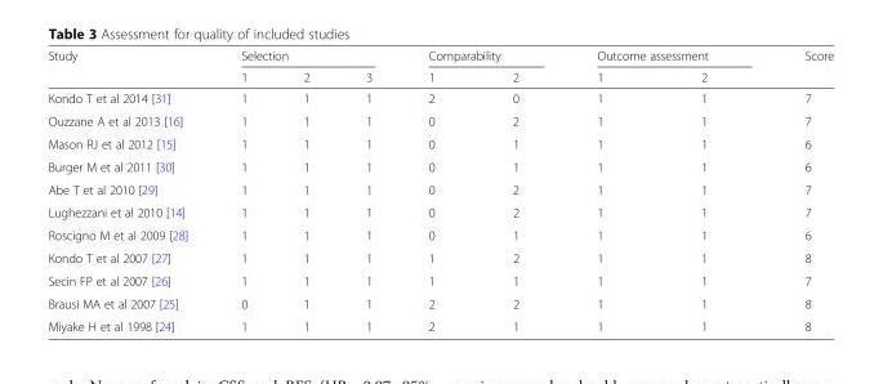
<table><thead><tr><td rowspan="2">Study</td><td colspan="3">Selection</td><td colspan="2">Comparability</td><td colspan="2">Outcome assessment</td><td rowspan="2">Score</td></tr><tr><td>1</td><td>2</td><td>3</td><td>1</td><td>2</td><td>1</td><td>2</td></tr></thead><tbody><tr><td>Kondo T et al 2014 [31]</td><td>1</td><td>1</td><td>1</td><td>2</td><td>0</td><td>1</td><td>1</td><td>7</td></tr><tr><td>Ouzzane A et al 2013 [16]</td><td>1</td><td>1</td><td>1</td><td>0</td><td>2</td><td>1</td><td>1</td><td>7</td></tr><tr><td>Mason RJ et al 2012 [15]</td><td>1</td><td>1</td><td>1</td><td>0</td><td>1</td><td>1</td><td>1</td><td>6</td></tr><tr><td>Burger M et al 2011 [30]</td><td>1</td><td>1</td><td>1</td><td>0</td><td>1</td><td>1</td><td>1</td><td>6</td></tr><tr><td>Abe T et al 2010 [29]</td><td>1</td><td>1</td><td>1</td><td>0</td><td>2</td><td>1</td><td>1</td><td>7</td></tr><tr><td>Lughezzani et al 2010 [14]</td><td>1</td><td>1</td><td>1</td><td>0</td><td>2</td><td>1</td><td>1</td><td>7</td></tr><tr><td>Roscigno M et al 2009 [28]</td><td>1</td><td>1</td><td>1</td><td>0</td><td>1</td><td>1</td><td>1</td><td>6</td></tr><tr><td>Kondo T et al 2007 [27]</td><td>1</td><td>1</td><td>1</td><td>1</td><td>2</td><td>1</td><td>1</td><td>8</td></tr><tr><td>Secin FP et al 2007 [26]</td><td>1</td><td>1</td><td>1</td><td>1</td><td>1</td><td>1</td><td>1</td><td>7</td></tr><tr><td>Brausi MA et al 2007 [25]</td><td>0</td><td>1</td><td>1</td><td>2</td><td>2</td><td>1</td><td>1</td><td>8</td></tr><tr><td>Miyake H et al 1998 [24]</td><td>1</td><td>1</td><td>1</td><td>2</td><td>1</td><td>1</td><td>1</td><td>8</td></tr></tbody></table>